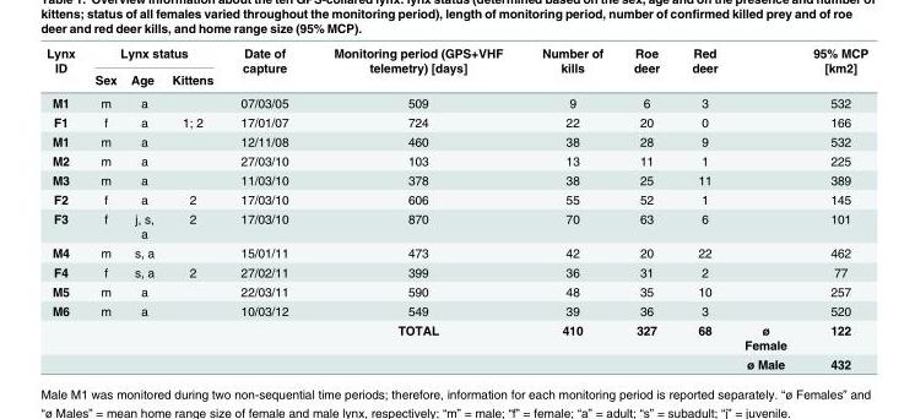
<table><thead><tr><td rowspan="2">Lynx ID</td><td colspan="3">Lynx status</td><td rowspan="2">Date of capture</td><td rowspan="2">Monitoring period (GPS+VHF telemetry) [days]</td><td rowspan="2">Number of kills</td><td rowspan="2">Roe deer</td><td rowspan="2">Red deer</td><td rowspan="2"></td><td rowspan="2">95% MCP [km2]</td></tr><tr><td>Sex</td><td>Age</td><td>Kittens</td></tr></thead><tbody><tr><td>M1</td><td>m</td><td>a</td><td></td><td>07/03/05</td><td>509</td><td>9</td><td>6</td><td>3</td><td></td><td>532</td></tr><tr><td>F1</td><td>f</td><td>a</td><td>1; 2</td><td>17/01/07</td><td>724</td><td>22</td><td>20</td><td>0</td><td></td><td>166</td></tr><tr><td>M1</td><td>m</td><td>a</td><td></td><td>12/11/08</td><td>460</td><td>38</td><td>28</td><td>9</td><td></td><td>532</td></tr><tr><td>M2</td><td>m</td><td>a</td><td></td><td>27/03/10</td><td>103</td><td>13</td><td>11</td><td>1</td><td></td><td>225</td></tr><tr><td>M3</td><td>m</td><td>a</td><td></td><td>11/03/10</td><td>378</td><td>38</td><td>25</td><td>11</td><td></td><td>389</td></tr><tr><td>F2</td><td>f</td><td>a</td><td>2</td><td>17/03/10</td><td>606</td><td>55</td><td>52</td><td>1</td><td></td><td>145</td></tr><tr><td>F3</td><td>f</td><td>j, s, a</td><td>2</td><td>17/03/10</td><td>870</td><td>70</td><td>63</td><td>6</td><td></td><td>101</td></tr><tr><td>M4</td><td>m</td><td>s, a</td><td></td><td>15/01/11</td><td>473</td><td>42</td><td>20</td><td>22</td><td></td><td>462</td></tr><tr><td>F4</td><td>f</td><td>s, a</td><td>2</td><td>27/02/11</td><td>399</td><td>36</td><td>31</td><td>2</td><td></td><td>77</td></tr><tr><td>M5</td><td>m</td><td>a</td><td></td><td>22/03/11</td><td>590</td><td>48</td><td>35</td><td>10</td><td></td><td>257</td></tr><tr><td rowspan="3">M6</td><td>m</td><td>a</td><td></td><td>10/03/12</td><td>549</td><td>39</td><td>36</td><td>3</td><td></td><td>520</td></tr><tr><td></td><td></td><td></td><td></td><td>TOTAL</td><td>410</td><td>327</td><td>68</td><td>ø Female</td><td>122</td></tr><tr><td></td><td></td><td></td><td></td><td></td><td></td><td></td><td></td><td>ø Male</td><td>432</td></tr></tbody></table>